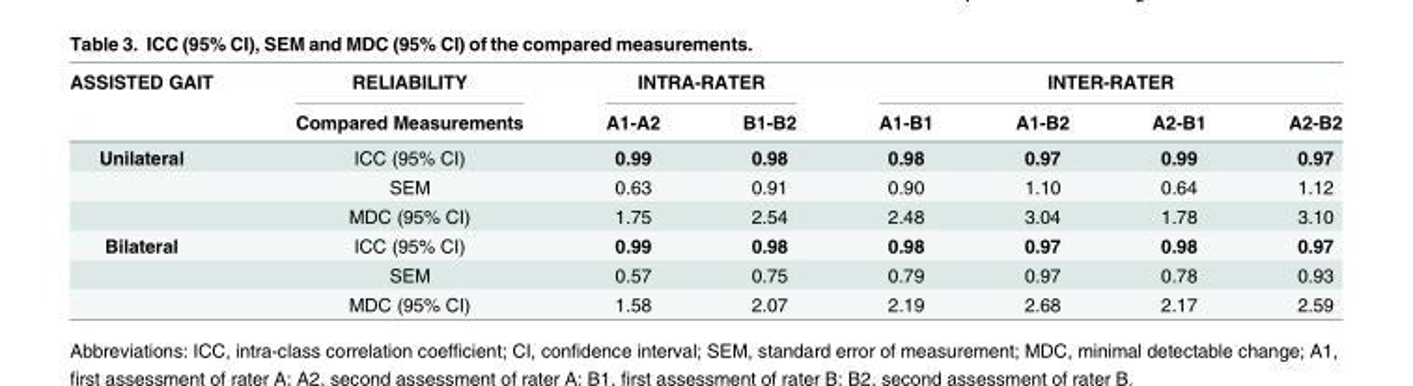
<table><thead><tr><td rowspan="2">ASSISTED GAIT</td><td rowspan="2">RELIABILITY Compared Measurements</td><td colspan="2">INTRA-RATER</td><td colspan="4">INTER-RATER</td></tr><tr><td>A1-A2</td><td>B1-B2</td><td>A1-B1</td><td>A1-B2</td><td>A2-B1</td><td>A2-B2</td></tr></thead><tbody><tr><td rowspan="3">Unilateral</td><td>ICC (95% CI)</td><td>0.99</td><td>0.98</td><td>0.98</td><td>0.97</td><td>0.99</td><td>0.97</td></tr><tr><td>SEM</td><td>0.63</td><td>0.91</td><td>0.90</td><td>1.10</td><td>0.64</td><td>1.12</td></tr><tr><td>MDC (95% CI)</td><td>1.75</td><td>2.54</td><td>2.48</td><td>3.04</td><td>1.78</td><td>3.10</td></tr><tr><td rowspan="3">Bilateral</td><td>ICC (95% CI)</td><td>0.99</td><td>0.98</td><td>0.98</td><td>0.97</td><td>0.98</td><td>0.97</td></tr><tr><td>SEM</td><td>0.57</td><td>0.75</td><td>0.79</td><td>0.97</td><td>0.78</td><td>0.93</td></tr><tr><td>MDC (95% CI)</td><td>1.58</td><td>2.07</td><td>2.19</td><td>2.68</td><td>2.17</td><td>2.59</td></tr></tbody></table>